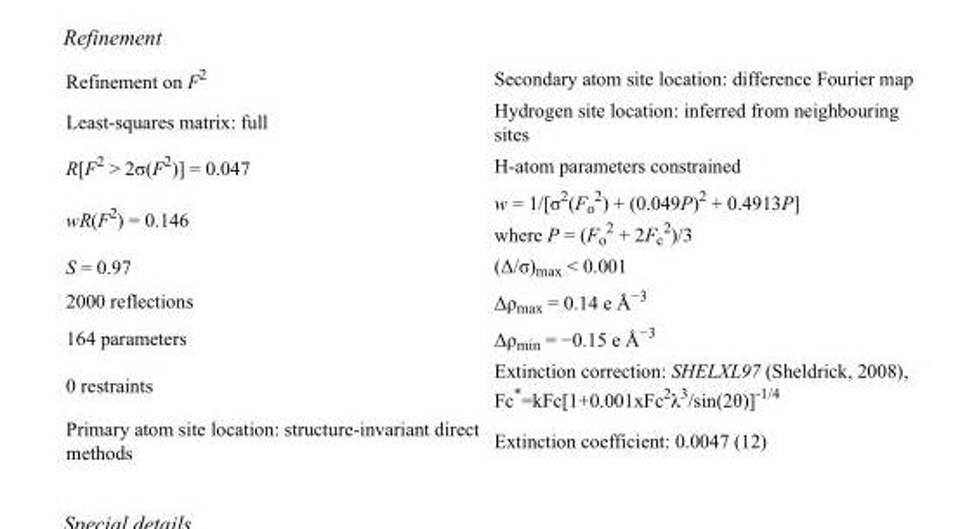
<table><tbody><tr><td>Refinement on F<sup>2</sup></td><td>Secondary atom site location: difference Fourier map</td></tr><tr><td>Least-squares matrix: full</td><td>Hydrogen site location: inferred from neighbouring sites</td></tr><tr><td>R[F<sup>2</sup> &gt; 2σ(F<sup>2</sup>)] = 0.047</td><td>H-atom parameters constrained</td></tr><tr><td>wR(F<sup>2</sup>) = 0.146</td><td>w = 1/[σ<sup>2</sup>(F<sub>o</sub> <sup>2</sup>) + (0.049P)<sup>2</sup> + 0.4913P] where P = (F<sub>o</sub> <sup>2</sup> + 2F<sub>c</sub> <sup>2</sup>)/3</td></tr><tr><td>S = 0.97</td><td>(Δ/σ)<sub>max</sub> &lt; 0.001</td></tr><tr><td>2000 reflections</td><td>Δρ<sub>max</sub> = 0.14 e Å<sup>−3</sup></td></tr><tr><td>164 parameters</td><td>Δρ<sub>min</sub> = −0.15 e Å<sup>−3</sup></td></tr><tr><td>0 restraints</td><td>Extinction correction: SHELXL97 (Sheldrick, 2008), Fc*=kFc[1+0.001xFc<sup>2</sup>λ<sup>3</sup>/sin(2θ)]<sup>-1/4</sup></td></tr><tr><td>Primary atom site location: structure-invariant direct methods</td><td>Extinction coefficient: 0.0047 (12)</td></tr></tbody></table>